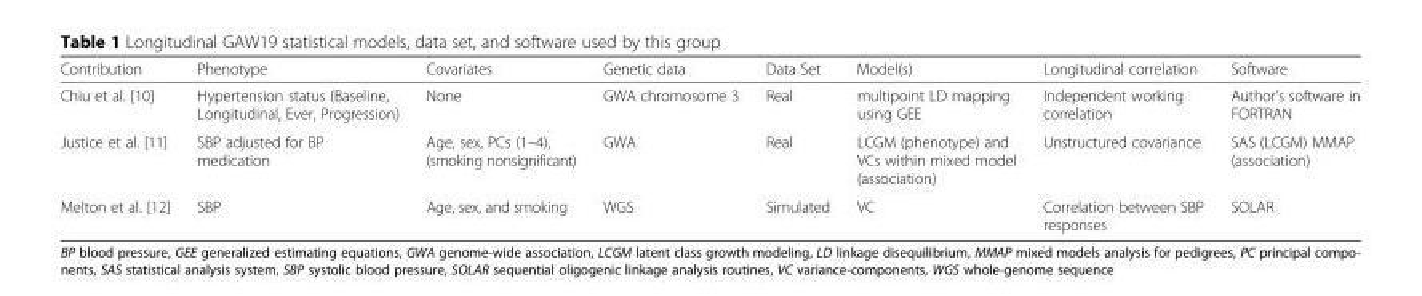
<table><thead><tr><td>Contribution</td><td>Phenotype</td><td>Covariates</td><td>Genetic data</td><td>Data Set</td><td>Model(s)</td><td>Longitudinal correlation</td><td>Software</td></tr></thead><tbody><tr><td>Chiu et al. [10]</td><td>Hypertension status (Baseline, Longitudinal, Ever, Progression)</td><td>None</td><td>GWA chromosome 3</td><td>Real</td><td>multipoint LD mapping using GEE</td><td>Independent working correlation</td><td>Author’s software in FORTRAN</td></tr><tr><td>Justice et al. [11]</td><td>SBP adjusted for BP medication</td><td>Age, sex, PCs (1–4), (smoking nonsignificant)</td><td>GWA</td><td>Real</td><td>LCGM (phenotype) and VCs within mixed model (association)</td><td>Unstructured covariance</td><td>SAS (LCGM) MMAP (association)</td></tr><tr><td>Melton et al. [12]</td><td>SBP</td><td>Age, sex, and smoking</td><td>WGS</td><td>Simulated</td><td>VC</td><td>Correlation between SBP responses</td><td>SOLAR</td></tr></tbody></table>